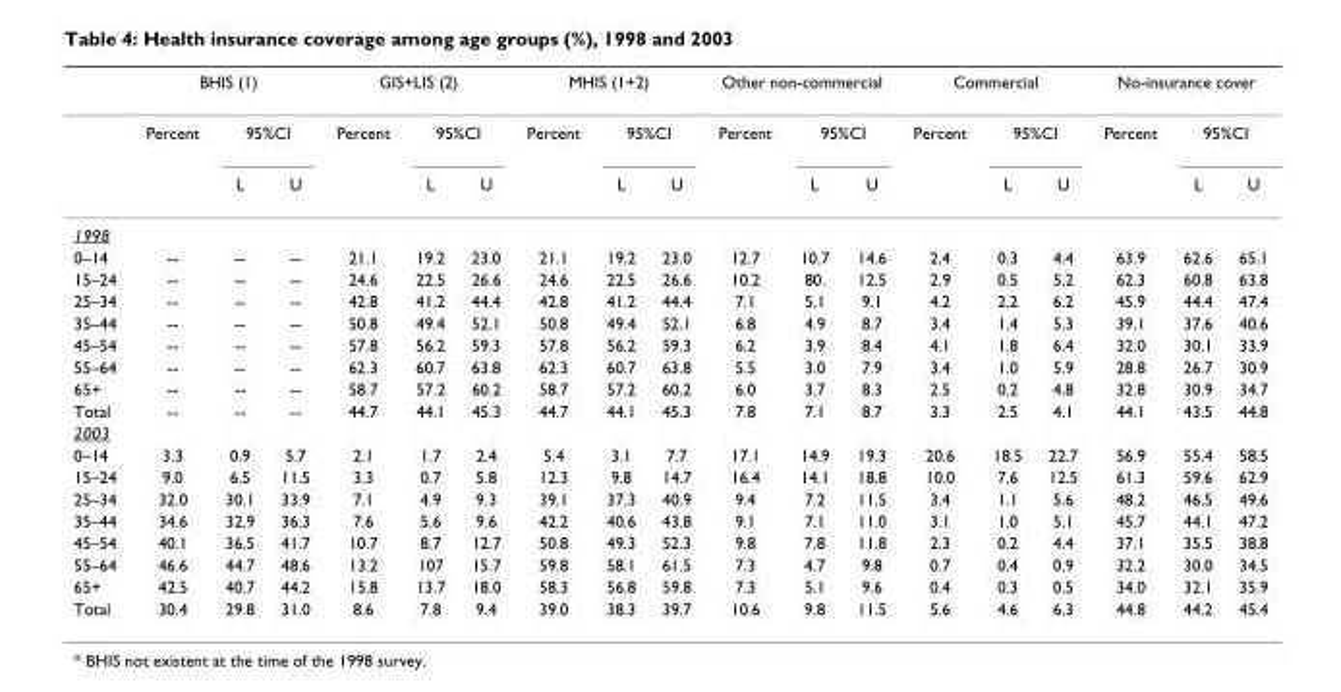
<table><thead><tr><td rowspan="3"></td><td colspan="3">BHIS (1)</td><td colspan="3">GIS+LIS (2)</td><td colspan="3">MHIS (1+2)</td><td colspan="3">Other non-commercial</td><td colspan="3">Commercial</td><td colspan="3">No-insurance cover</td></tr><tr><td rowspan="2">Percent</td><td colspan="2">95%CI</td><td rowspan="2">Percent</td><td colspan="2">95%CI</td><td rowspan="2">Percent</td><td colspan="2">95%CI</td><td rowspan="2">Percent</td><td colspan="2">95%CI</td><td rowspan="2">Percent</td><td colspan="2">95%CI</td><td rowspan="2">Percent</td><td colspan="2">95%CI</td></tr><tr><td>L</td><td>U</td><td>L</td><td>U</td><td>L</td><td>U</td><td>L</td><td>U</td><td>L</td><td>U</td><td>L</td><td>U</td></tr></thead><tbody><tr><td colspan="19">1998</td></tr><tr><td>0–14</td><td>--</td><td>--</td><td>--</td><td>21.1</td><td>19.2</td><td>23.0</td><td>21.1</td><td>19.2</td><td>23.0</td><td>12.7</td><td>10.7</td><td>14.6</td><td>2.4</td><td>0.3</td><td>4.4</td><td>63.9</td><td>62.6</td><td>65.1</td></tr><tr><td>15–24</td><td>--</td><td>--</td><td>--</td><td>24.6</td><td>22.5</td><td>26.6</td><td>24.6</td><td>22.5</td><td>26.6</td><td>10.2</td><td>80.</td><td>12.5</td><td>2.9</td><td>0.5</td><td>5.2</td><td>62.3</td><td>60.8</td><td>63.8</td></tr><tr><td>25–34</td><td>--</td><td>--</td><td>--</td><td>42.8</td><td>41.2</td><td>44.4</td><td>42.8</td><td>41.2</td><td>44.4</td><td>7.1</td><td>5.1</td><td>9.1</td><td>4.2</td><td>2.2</td><td>6.2</td><td>45.9</td><td>44.4</td><td>47.4</td></tr><tr><td>35–44</td><td>--</td><td>--</td><td>--</td><td>50.8</td><td>49.4</td><td>52.1</td><td>50.8</td><td>49.4</td><td>52.1</td><td>6.8</td><td>4.9</td><td>8.7</td><td>3.4</td><td>1.4</td><td>5.3</td><td>39.1</td><td>37.6</td><td>40.6</td></tr><tr><td>45–54</td><td>--</td><td>--</td><td>--</td><td>57.8</td><td>56.2</td><td>59.3</td><td>57.8</td><td>56.2</td><td>59.3</td><td>6.2</td><td>3.9</td><td>8.4</td><td>4.1</td><td>1.8</td><td>6.4</td><td>32.0</td><td>30.1</td><td>33.9</td></tr><tr><td>55–64</td><td>--</td><td>--</td><td>--</td><td>62.3</td><td>60.7</td><td>63.8</td><td>62.3</td><td>60.7</td><td>63.8</td><td>5.5</td><td>3.0</td><td>7.9</td><td>3.4</td><td>1.0</td><td>5.9</td><td>28.8</td><td>26.7</td><td>30.9</td></tr><tr><td>65+</td><td>--</td><td>--</td><td>--</td><td>58.7</td><td>57.2</td><td>60.2</td><td>58.7</td><td>57.2</td><td>60.2</td><td>6.0</td><td>3.7</td><td>8.3</td><td>2.5</td><td>0.2</td><td>4.8</td><td>32.8</td><td>30.9</td><td>34.7</td></tr><tr><td>Total</td><td>--</td><td>--</td><td>--</td><td>44.7</td><td>44.1</td><td>45.3</td><td>44.7</td><td>44.1</td><td>45.3</td><td>7.8</td><td>7.1</td><td>8.7</td><td>3.3</td><td>2.5</td><td>4.1</td><td>44.1</td><td>43.5</td><td>44.8</td></tr><tr><td colspan="19">2003</td></tr><tr><td>0–14</td><td>3.3</td><td>0.9</td><td>5.7</td><td>2.1</td><td>1.7</td><td>2.4</td><td>5.4</td><td>3.1</td><td>7.7</td><td>17.1</td><td>14.9</td><td>19.3</td><td>20.6</td><td>18.5</td><td>22.7</td><td>56.9</td><td>55.4</td><td>58.5</td></tr><tr><td>15–24</td><td>9.0</td><td>6.5</td><td>11.5</td><td>3.3</td><td>0.7</td><td>5.8</td><td>12.3</td><td>9.8</td><td>14.7</td><td>16.4</td><td>14.1</td><td>18.8</td><td>10.0</td><td>7.6</td><td>12.5</td><td>61.3</td><td>59.6</td><td>62.9</td></tr><tr><td>25–34</td><td>32.0</td><td>30.1</td><td>33.9</td><td>7.1</td><td>4.9</td><td>9.3</td><td>39.1</td><td>37.3</td><td>40.9</td><td>9.4</td><td>7.2</td><td>11.5</td><td>3.4</td><td>1.1</td><td>5.6</td><td>48.2</td><td>46.5</td><td>49.6</td></tr><tr><td>35–44</td><td>34.6</td><td>32.9</td><td>36.3</td><td>7.6</td><td>5.6</td><td>9.6</td><td>42.2</td><td>40.6</td><td>43.8</td><td>9.1</td><td>7.1</td><td>11.0</td><td>3.1</td><td>1.0</td><td>5.1</td><td>45.7</td><td>44.1</td><td>47.2</td></tr><tr><td>45–54</td><td>40.1</td><td>36.5</td><td>41.7</td><td>10.7</td><td>8.7</td><td>12.7</td><td>50.8</td><td>49.3</td><td>52.3</td><td>9.8</td><td>7.8</td><td>11.8</td><td>2.3</td><td>0.2</td><td>4.4</td><td>37.1</td><td>35.5</td><td>38.8</td></tr><tr><td>55–64</td><td>46.6</td><td>44.7</td><td>48.6</td><td>13.2</td><td>107</td><td>15.7</td><td>59.8</td><td>58.1</td><td>61.5</td><td>7.3</td><td>4.7</td><td>9.8</td><td>0.7</td><td>0.4</td><td>0.9</td><td>32.2</td><td>30.0</td><td>34.5</td></tr><tr><td>65+</td><td>42.5</td><td>40.7</td><td>44.2</td><td>15.8</td><td>13.7</td><td>18.0</td><td>58.3</td><td>56.8</td><td>59.8</td><td>7.3</td><td>5.1</td><td>9.6</td><td>0.4</td><td>0.3</td><td>0.5</td><td>34.0</td><td>32.1</td><td>35.9</td></tr><tr><td>Total</td><td>30.4</td><td>29.8</td><td>31.0</td><td>8.6</td><td>7.8</td><td>9.4</td><td>39.0</td><td>38.3</td><td>39.7</td><td>10.6</td><td>9.8</td><td>11.5</td><td>5.6</td><td>4.6</td><td>6.3</td><td>44.8</td><td>44.2</td><td>45.4</td></tr></tbody></table>